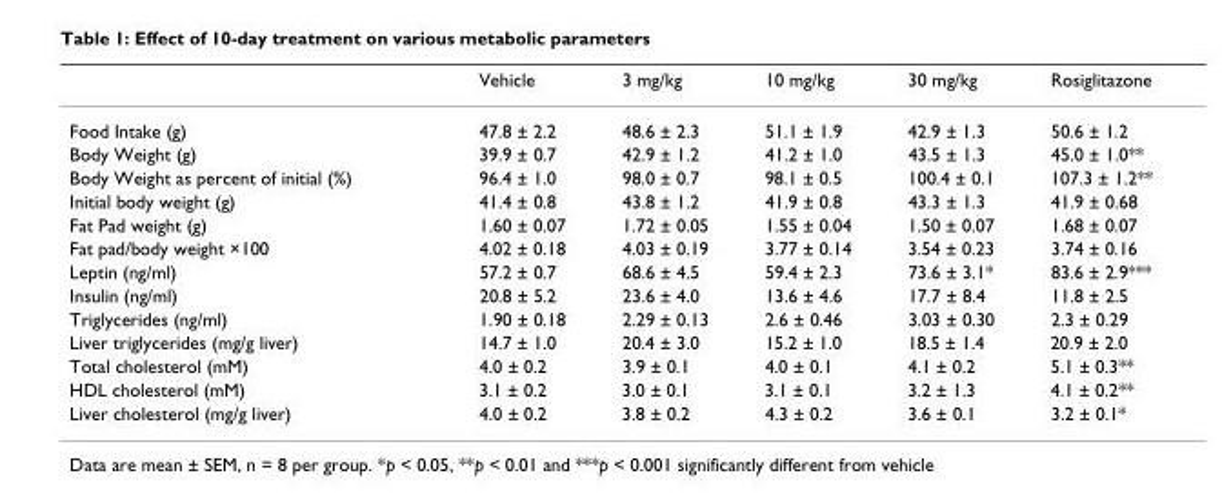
<table><thead><tr><td></td><td>Vehicle</td><td>3 mg/kg</td><td>10 mg/kg</td><td>30 mg/kg</td><td>Rosiglitazone</td></tr></thead><tbody><tr><td>Food Intake (g)</td><td>47.8 ± 2.2</td><td>48.6 ± 2.3</td><td>51.1 ± 1.9</td><td>42.9 ± 1.3</td><td>50.6 ± 1.2</td></tr><tr><td>Body Weight (g)</td><td>39.9 ± 0.7</td><td>42.9 ± 1.2</td><td>41.2 ± 1.0</td><td>43.5 ± 1.3</td><td>45.0 ± 1.0**</td></tr><tr><td>Body Weight as percent of initial (%)</td><td>96.4 ± 1.0</td><td>98.0 ± 0.7</td><td>98.1 ± 0.5</td><td>100.4 ± 0.1</td><td>107.3 ± 1.2**</td></tr><tr><td>Initial body weight (g)</td><td>41.4 ± 0.8</td><td>43.8 ± 1.2</td><td>41.9 ± 0.8</td><td>43.3 ± 1.3</td><td>41.9 ± 0.68</td></tr><tr><td>Fat Pad weight (g)</td><td>1.60 ± 0.07</td><td>1.72 ± 0.05</td><td>1.55 ± 0.04</td><td>1.50 ± 0.07</td><td>1.68 ± 0.07</td></tr><tr><td>Fat pad/body weight ×100</td><td>4.02 ± 0.18</td><td>4.03 ± 0.19</td><td>3.77 ± 0.14</td><td>3.54 ± 0.23</td><td>3.74 ± 0.16</td></tr><tr><td>Leptin (ng/ml)</td><td>57.2 ± 0.7</td><td>68.6 ± 4.5</td><td>59.4 ± 2.3</td><td>73.6 ± 3.1*</td><td>83.6 ± 2.9***</td></tr><tr><td>Insulin (ng/ml)</td><td>20.8 ± 5.2</td><td>23.6 ± 4.0</td><td>13.6 ± 4.6</td><td>17.7 ± 8.4</td><td>11.8 ± 2.5</td></tr><tr><td>Triglycerides (ng/ml)</td><td>1.90 ± 0.18</td><td>2.29 ± 0.13</td><td>2.6 ± 0.46</td><td>3.03 ± 0.30</td><td>2.3 ± 0.29</td></tr><tr><td>Liver triglycerides (mg/g liver)</td><td>14.7 ± 1.0</td><td>20.4 ± 3.0</td><td>15.2 ± 1.0</td><td>18.5 ± 1.4</td><td>20.9 ± 2.0</td></tr><tr><td>Total cholesterol (mM)</td><td>4.0 ± 0.2</td><td>3.9 ± 0.1</td><td>4.0 ± 0.1</td><td>4.1 ± 0.2</td><td>5.1 ± 0.3**</td></tr><tr><td>HDL cholesterol (mM)</td><td>3.1 ± 0.2</td><td>3.0 ± 0.1</td><td>3.1 ± 0.1</td><td>3.2 ± 1.3</td><td>4.1 ± 0.2**</td></tr><tr><td>Liver cholesterol (mg/g liver)</td><td>4.0 ± 0.2</td><td>3.8 ± 0.2</td><td>4.3 ± 0.2</td><td>3.6 ± 0.1</td><td>3.2 ± 0.1*</td></tr></tbody></table>